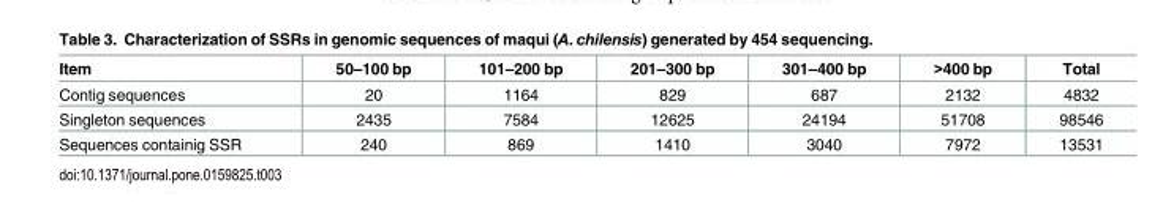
<table><thead><tr><td>Item</td><td>50–100 bp</td><td>101–200 bp</td><td>201–300 bp</td><td>301–400 bp</td><td>&gt;400 bp</td><td>Total</td></tr></thead><tbody><tr><td>Contig sequences</td><td>20</td><td>1164</td><td>829</td><td>687</td><td>2132</td><td>4832</td></tr><tr><td>Singleton sequences</td><td>2435</td><td>7584</td><td>12625</td><td>24194</td><td>51708</td><td>98546</td></tr><tr><td>Sequences containig SSR</td><td>240</td><td>869</td><td>1410</td><td>3040</td><td>7972</td><td>13531</td></tr></tbody></table>